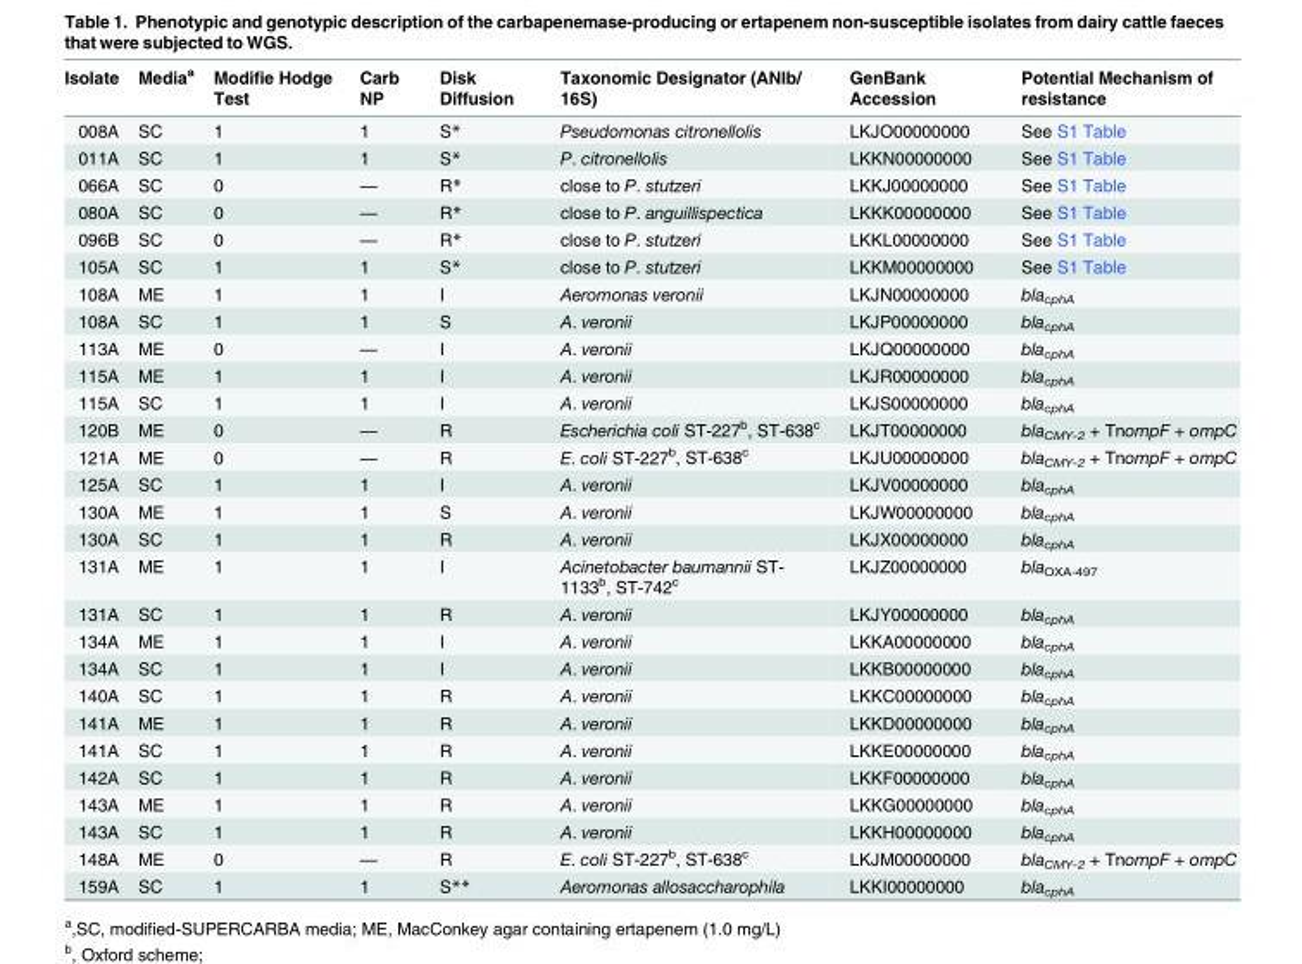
<table><thead><tr><td>Isolate</td><td>Media<sup>a</sup></td><td>Modifie Hodge Test</td><td>Carb NP</td><td>Disk Diffusion</td><td>Taxonomic Designator (ANIb/ 16S)</td><td>GenBank Accession</td><td>Potential Mechanism of resistance</td></tr></thead><tbody><tr><td>008A</td><td>SC</td><td>1</td><td>1</td><td>S*</td><td>Pseudomonas citronellolis</td><td>LKJO00000000</td><td>See S1 Table</td></tr><tr><td>011A</td><td>SC</td><td>1</td><td>1</td><td>S*</td><td>P. citronellolis</td><td>LKKN00000000</td><td>See S1 Table</td></tr><tr><td>066A</td><td>SC</td><td>0</td><td>—</td><td>R*</td><td>close to P. stutzeri</td><td>LKKJ00000000</td><td>See S1 Table</td></tr><tr><td>080A</td><td>SC</td><td>0</td><td>—</td><td>R*</td><td>close to P. anguillispectica</td><td>LKKK00000000</td><td>See S1 Table</td></tr><tr><td>096B</td><td>SC</td><td>0</td><td>—</td><td>R*</td><td>close to P. stutzeri</td><td>LKKL00000000</td><td>See S1 Table</td></tr><tr><td>105A</td><td>SC</td><td>1</td><td>1</td><td>S*</td><td>close to P. stutzeri</td><td>LKKM00000000</td><td>See S1 Table</td></tr><tr><td>108A</td><td>ME</td><td>1</td><td>1</td><td>I</td><td>Aeromonas veronii</td><td>LKJN00000000</td><td>bla<sub>cphA</sub></td></tr><tr><td>108A</td><td>SC</td><td>1</td><td>1</td><td>S</td><td>A. veronii</td><td>LKJP00000000</td><td>bla<sub>cphA</sub></td></tr><tr><td>113A</td><td>ME</td><td>0</td><td>—</td><td>I</td><td>A. veronii</td><td>LKJQ00000000</td><td>bla<sub>cphA</sub></td></tr><tr><td>115A</td><td>ME</td><td>1</td><td>1</td><td>I</td><td>A. veronii</td><td>LKJR00000000</td><td>bla<sub>cphA</sub></td></tr><tr><td>115A</td><td>SC</td><td>1</td><td>1</td><td>I</td><td>A. veronii</td><td>LKJS00000000</td><td>bla<sub>cphA</sub></td></tr><tr><td>120B</td><td>ME</td><td>0</td><td>—</td><td>R</td><td>Escherichia coli ST-227<sup>b</sup>, ST-638<sup>c</sup></td><td>LKJT00000000</td><td>bla<sub>CMY-2</sub> + TnompF + ompC</td></tr><tr><td>121A</td><td>ME</td><td>0</td><td>—</td><td>R</td><td>E. coli ST-227<sup>b</sup>, ST-638<sup>c</sup></td><td>LKJU00000000</td><td>bla<sub>CMY-2</sub> + TnompF + ompC</td></tr><tr><td>125A</td><td>SC</td><td>1</td><td>1</td><td>I</td><td>A. veronii</td><td>LKJV00000000</td><td>bla<sub>cphA</sub></td></tr><tr><td>130A</td><td>ME</td><td>1</td><td>1</td><td>S</td><td>A. veronii</td><td>LKJW00000000</td><td>bla<sub>cphA</sub></td></tr><tr><td>130A</td><td>SC</td><td>1</td><td>1</td><td>R</td><td>A. veronii</td><td>LKJX00000000</td><td>bla<sub>cphA</sub></td></tr><tr><td>131A</td><td>ME</td><td>1</td><td>1</td><td>I</td><td>Acinetobacter baumannii ST- 1133<sup>b</sup>, ST-742<sup>c</sup></td><td>LKJZ00000000</td><td>bla<sub>OXA-497</sub></td></tr><tr><td>131A</td><td>SC</td><td>1</td><td>1</td><td>R</td><td>A. veronii</td><td>LKJY00000000</td><td>bla<sub>cphA</sub></td></tr><tr><td>134A</td><td>ME</td><td>1</td><td>1</td><td>I</td><td>A. veronii</td><td>LKKA00000000</td><td>bla<sub>cphA</sub></td></tr><tr><td>134A</td><td>SC</td><td>1</td><td>1</td><td>I</td><td>A. veronii</td><td>LKKB00000000</td><td>bla<sub>cphA</sub></td></tr><tr><td>140A</td><td>SC</td><td>1</td><td>1</td><td>R</td><td>A. veronii</td><td>LKKC00000000</td><td>bla<sub>cphA</sub></td></tr><tr><td>141A</td><td>ME</td><td>1</td><td>1</td><td>R</td><td>A. veronii</td><td>LKKD00000000</td><td>bla<sub>cphA</sub></td></tr><tr><td>141A</td><td>SC</td><td>1</td><td>1</td><td>R</td><td>A. veronii</td><td>LKKE00000000</td><td>bla<sub>cphA</sub></td></tr><tr><td>142A</td><td>SC</td><td>1</td><td>1</td><td>R</td><td>A. veronii</td><td>LKKF00000000</td><td>bla<sub>cphA</sub></td></tr><tr><td>143A</td><td>ME</td><td>1</td><td>1</td><td>R</td><td>A. veronii</td><td>LKKG00000000</td><td>bla<sub>cphA</sub></td></tr><tr><td>143A</td><td>SC</td><td>1</td><td>1</td><td>R</td><td>A. veronii</td><td>LKKH00000000</td><td>bla<sub>cphA</sub></td></tr><tr><td>148A</td><td>ME</td><td>0</td><td>—</td><td>R</td><td>E. coli ST-227<sup>b</sup>, ST-638<sup>c</sup></td><td>LKJM00000000</td><td>bla<sub>CMY-2</sub> + TnompF + ompC</td></tr><tr><td>159A</td><td>SC</td><td>1</td><td>1</td><td>S**</td><td>Aeromonas allosaccharophila</td><td>LKKI00000000</td><td>bla<sub>cphA</sub></td></tr></tbody></table>